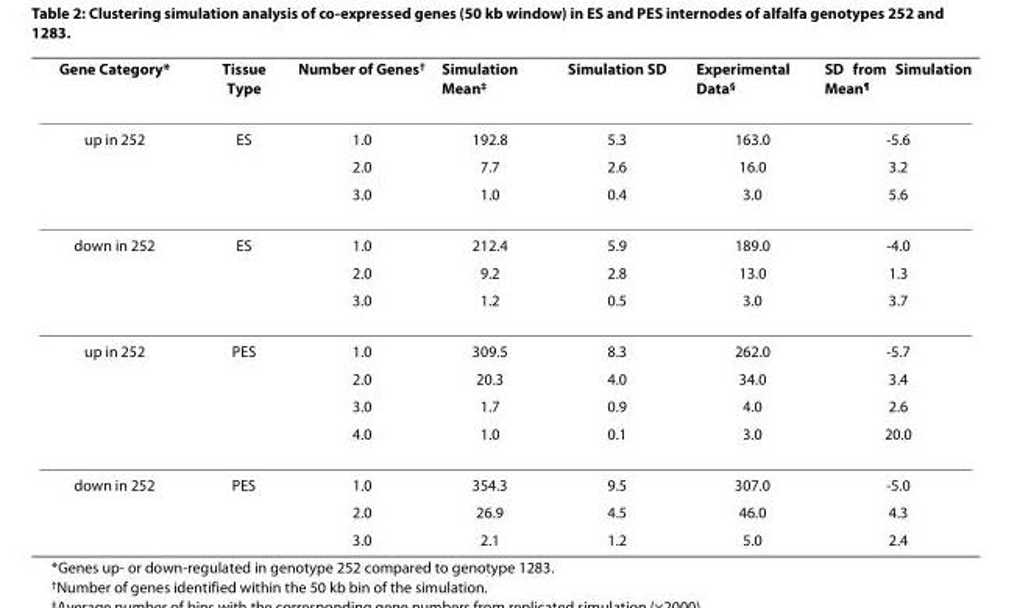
<table><thead><tr><td>Gene Category*</td><td>Tissue Type</td><td>Number of Genes<sup>†</sup></td><td>Simulation Mean<sup>‡</sup></td><td>Simulation SD</td><td>Experimental Data<sup>§</sup></td><td>SD from Simulation Mean<sup>¶</sup></td></tr></thead><tbody><tr><td rowspan="3">up in 252</td><td>ES</td><td>1.0</td><td>192.8</td><td>5.3</td><td>163.0</td><td>-5.6</td></tr><tr><td></td><td>2.0</td><td>7.7</td><td>2.6</td><td>16.0</td><td>3.2</td></tr><tr><td></td><td>3.0</td><td>1.0</td><td>0.4</td><td>3.0</td><td>5.6</td></tr><tr><td rowspan="3">down in 252</td><td>ES</td><td>1.0</td><td>212.4</td><td>5.9</td><td>189.0</td><td>-4.0</td></tr><tr><td></td><td>2.0</td><td>9.2</td><td>2.8</td><td>13.0</td><td>1.3</td></tr><tr><td></td><td>3.0</td><td>1.2</td><td>0.5</td><td>3.0</td><td>3.7</td></tr><tr><td rowspan="4">up in 252</td><td>PES</td><td>1.0</td><td>309.5</td><td>8.3</td><td>262.0</td><td>-5.7</td></tr><tr><td></td><td>2.0</td><td>20.3</td><td>4.0</td><td>34.0</td><td>3.4</td></tr><tr><td></td><td>3.0</td><td>1.7</td><td>0.9</td><td>4.0</td><td>2.6</td></tr><tr><td></td><td>4.0</td><td>1.0</td><td>0.1</td><td>3.0</td><td>20.0</td></tr><tr><td rowspan="3">down in 252</td><td>PES</td><td>1.0</td><td>354.3</td><td>9.5</td><td>307.0</td><td>-5.0</td></tr><tr><td></td><td>2.0</td><td>26.9</td><td>4.5</td><td>46.0</td><td>4.3</td></tr><tr><td></td><td>3.0</td><td>2.1</td><td>1.2</td><td>5.0</td><td>2.4</td></tr></tbody></table>